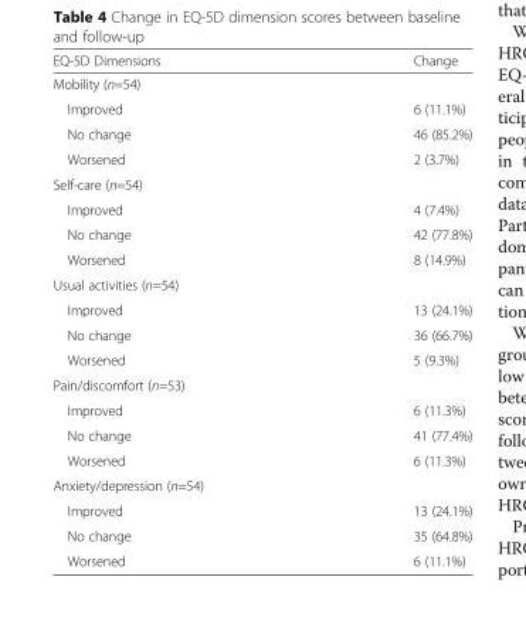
<table><thead><tr><td>EQ-5D Dimensions</td><td>Change</td></tr></thead><tbody><tr><td colspan="2">Mobility (n=54)</td></tr><tr><td>Improved</td><td>6 (11.1%)</td></tr><tr><td>No change</td><td>46 (85.2%)</td></tr><tr><td>Worsened</td><td>2 (3.7%)</td></tr><tr><td colspan="2">Self-care (n=54)</td></tr><tr><td>Improved</td><td>4 (7.4%)</td></tr><tr><td>No change</td><td>42 (77.8%)</td></tr><tr><td>Worsened</td><td>8 (14.9%)</td></tr><tr><td colspan="2">Usual activities (n=54)</td></tr><tr><td>Improved</td><td>13 (24.1%)</td></tr><tr><td>No change</td><td>36 (66.7%)</td></tr><tr><td>Worsened</td><td>5 (9.3%)</td></tr><tr><td colspan="2">Pain/discomfort (n=53)</td></tr><tr><td>Improved</td><td>6 (11.3%)</td></tr><tr><td>No change</td><td>41 (77.4%)</td></tr><tr><td>Worsened</td><td>6 (11.3%)</td></tr><tr><td colspan="2">Anxiety/depression (n=54)</td></tr><tr><td>Improved</td><td>13 (24.1%)</td></tr><tr><td>No change</td><td>35 (64.8%)</td></tr><tr><td>Worsened</td><td>6 (11.1%)</td></tr></tbody></table>